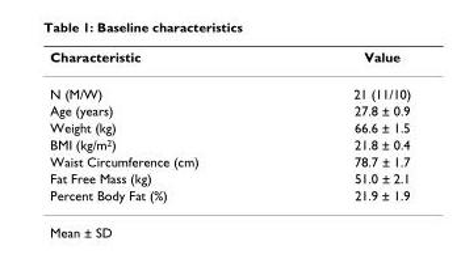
<table><thead><tr><td>Characteristic</td><td>Value</td></tr></thead><tbody><tr><td>N (M/W)</td><td>21 (11/10)</td></tr><tr><td>Age (years)</td><td>27.8 ± 0.9</td></tr><tr><td>Weight (kg)</td><td>66.6 ± 1.5</td></tr><tr><td>BMI (kg/m<sup>2</sup>)</td><td>21.8 ± 0.4</td></tr><tr><td>Waist Circumference (cm)</td><td>78.7 ± 1.7</td></tr><tr><td>Fat Free Mass (kg)</td><td>51.0 ± 2.1</td></tr><tr><td>Percent Body Fat (%)</td><td>21.9 ± 1.9</td></tr></tbody></table>